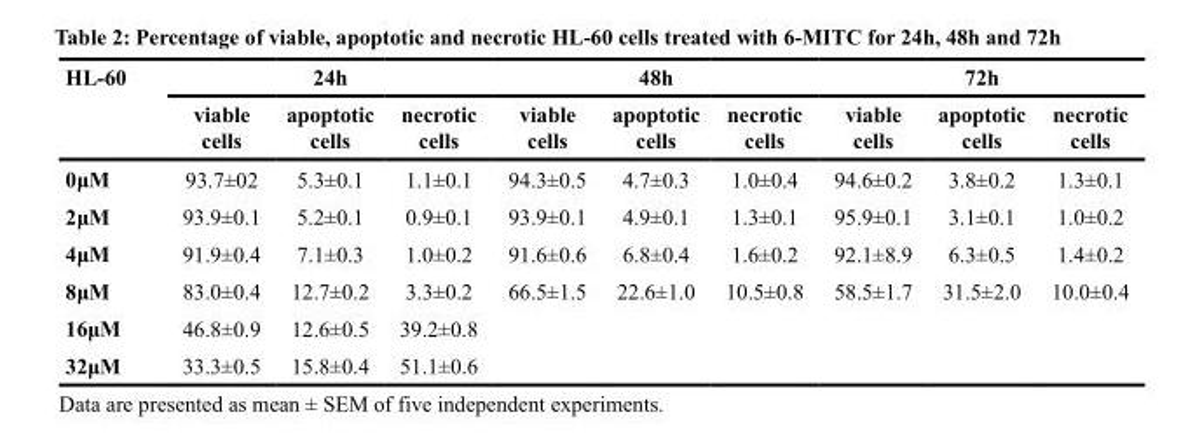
<table><thead><tr><td rowspan="2">HL-60</td><td rowspan="2">viable cells</td><td rowspan="2">24h apoptotic cells</td><td rowspan="2">necrotic cells</td><td rowspan="2">viable cells</td><td rowspan="2">48h apoptotic cells</td><td rowspan="2">necrotic cells</td><td rowspan="2">viable cells</td><td rowspan="2">72h apoptotic cells</td><td rowspan="2">necrotic cells</td></tr><tr></tr></thead><tbody><tr><td>0μM</td><td>93.7±02</td><td>5.3±0.1</td><td>1.1±0.1</td><td>94.3±0.5</td><td>4.7±0.3</td><td>1.0±0.4</td><td>94.6±0.2</td><td>3.8±0.2</td><td>1.3±0.1</td></tr><tr><td>2μM</td><td>93.9±0.1</td><td>5.2±0.1</td><td>0.9±0.1</td><td>93.9±0.1</td><td>4.9±0.1</td><td>1.3±0.1</td><td>95.9±0.1</td><td>3.1±0.1</td><td>1.0±0.2</td></tr><tr><td>4μM</td><td>91.9±0.4</td><td>7.1±0.3</td><td>1.0±0.2</td><td>91.6±0.6</td><td>6.8±0.4</td><td>1.6±0.2</td><td>92.1±8.9</td><td>6.3±0.5</td><td>1.4±0.2</td></tr><tr><td>8μM</td><td>83.0±0.4</td><td>12.7±0.2</td><td>3.3±0.2</td><td>66.5±1.5</td><td>22.6±1.0</td><td>10.5±0.8</td><td>58.5±1.7</td><td>31.5±2.0</td><td>10.0±0.4</td></tr><tr><td>16μM</td><td>46.8±0.9</td><td>12.6±0.5</td><td>39.2±0.8</td><td></td><td></td><td></td><td></td><td></td><td></td></tr><tr><td>32μM</td><td>33.3±0.5</td><td>15.8±0.4</td><td>51.1±0.6</td><td></td><td></td><td></td><td></td><td></td><td></td></tr></tbody></table>